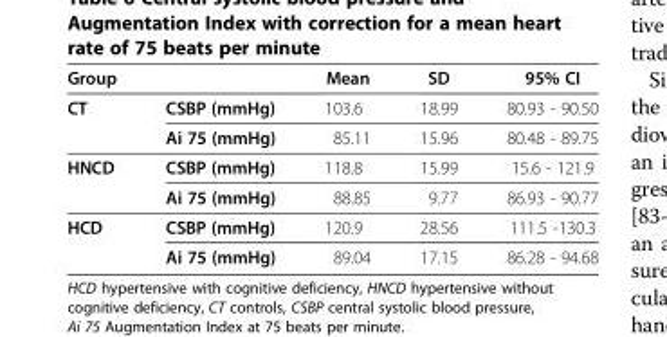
<table><thead><tr><td>Group</td><td></td><td>Mean</td><td>SD</td><td>95% CI</td></tr></thead><tbody><tr><td rowspan="2">CT</td><td>CSBP (mmHg)</td><td>103.6</td><td>18.99</td><td>80.93 - 90.50</td></tr><tr><td>Ai 75 (mmHg)</td><td>85.11</td><td>15.96</td><td>80.48 - 89.75</td></tr><tr><td rowspan="2">HNCD</td><td>CSBP (mmHg)</td><td>118.8</td><td>15.99</td><td>15.6 - 121.9</td></tr><tr><td>Ai 75 (mmHg)</td><td>88.85</td><td>9.77</td><td>86.93 - 90.77</td></tr><tr><td rowspan="2">HCD</td><td>CSBP (mmHg)</td><td>120.9</td><td>28.56</td><td>111.5 -130.3</td></tr><tr><td>Ai 75 (mmHg)</td><td>89.04</td><td>17.15</td><td>86.28 - 94.68</td></tr></tbody></table>